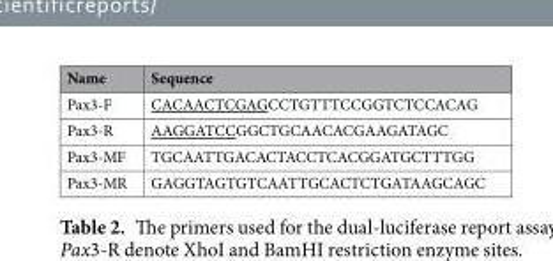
<table><thead><tr><td>Name</td><td>Sequence</td></tr></thead><tbody><tr><td>Pax3-F</td><td>CACAACTCGAGCCTGTTTCCGGTCTCCACAG</td></tr><tr><td>Pax3-R</td><td>AAGGATCCGGCTGCAACACGAAGATAGC</td></tr><tr><td>Pax3-MF</td><td>TGCAATTGACACTACCTCACGGATGCTTTGG</td></tr><tr><td>Pax3-MR</td><td>GAGGTAGTGTCAATTGCACTCTGATAAGCAGC</td></tr></tbody></table>